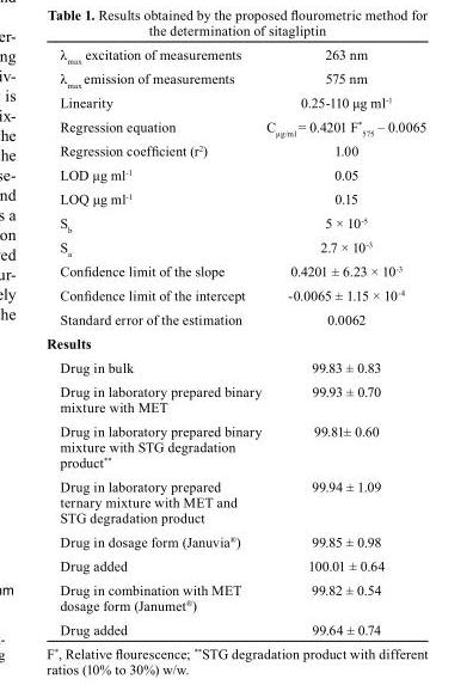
<table><tbody><tr><td>λ<sub>max</sub> excitation of measurements</td><td>263 nm</td></tr><tr><td>λ<sub>max</sub> emission of measurements</td><td>575 nm</td></tr><tr><td>Linearity</td><td>0.25-110 μg ml<sup>-1</sup></td></tr><tr><td>Regression equation</td><td>C<sub>μg/ml</sub> = 0.4201 F* <sub>575</sub> – 0.0065</td></tr><tr><td>Regression coefficient (r<sup>2</sup>)</td><td>1.00</td></tr><tr><td>LOD μg ml<sup>-1</sup></td><td>0.05</td></tr><tr><td>LOQ μg ml<sup>-1</sup></td><td>0.15</td></tr><tr><td>S<sub>b</sub></td><td>5 × 10<sup>-5</sup></td></tr><tr><td>S<sub>a</sub></td><td>2.7 × 10<sup>-3</sup></td></tr><tr><td>Confidence limit of the slope</td><td>0.4201 ± 6.23 × 10<sup>-3</sup></td></tr><tr><td>Confidence limit of the intercept</td><td>-0.0065 ± 1.15 × 10<sup>-4</sup></td></tr><tr><td>Standard error of the estimation</td><td>0.0062</td></tr><tr><td colspan="2">results</td></tr><tr><td>Drug in bulk</td><td>99.83 ± 0.83</td></tr><tr><td>Drug in laboratory prepared binary mixture with MET</td><td>99.93 ± 0.70</td></tr><tr><td>Drug in laboratory prepared binary mixture with STG degradation product**</td><td>99.81± 0.60</td></tr><tr><td>Drug in laboratory prepared ternary mixture with MET and STG degradation product</td><td>99.94 ± 1.09</td></tr><tr><td>Drug in dosage form (Januvia<sup>®</sup>)</td><td>99.85 ± 0.98</td></tr><tr><td>Drug added</td><td>100.01 ± 0.64</td></tr><tr><td>Drug in combination with MET dosage form (Janumet<sup>®</sup>)</td><td>99.82 ± 0.54</td></tr><tr><td>Drug added</td><td>99.64 ± 0.74</td></tr></tbody></table>